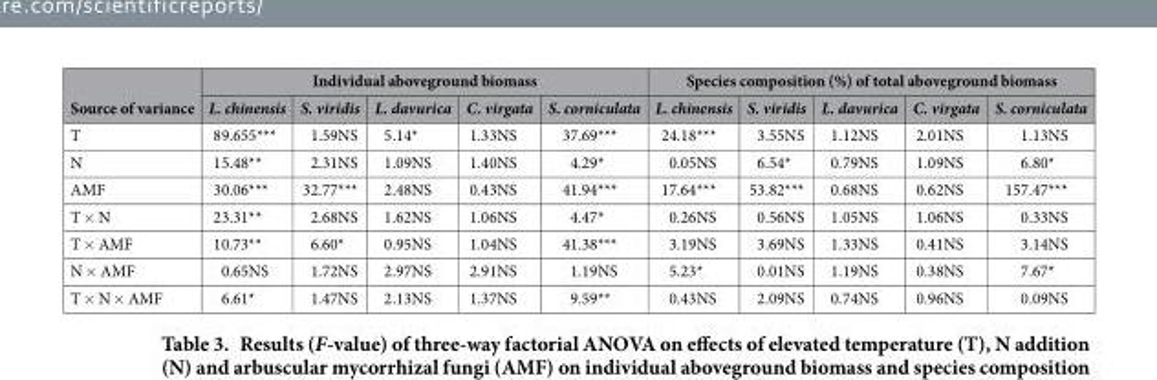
<table><thead><tr><td rowspan="2">Source of variance</td><td colspan="5">Individual aboveground biomass</td><td colspan="5">Species composition (%) of total aboveground biomass</td></tr><tr><td>L. chinensis</td><td>S. viridis</td><td>L. davurica</td><td>C. virgata</td><td>S. corniculata</td><td>L. chinensis</td><td>S. viridis</td><td>L. davurica</td><td>C. virgata</td><td>S. corniculata</td></tr></thead><tbody><tr><td>T</td><td>89.655***</td><td>1.59NS</td><td>5.14*</td><td>1.33NS</td><td>37.69***</td><td>24.18***</td><td>3.55NS</td><td>1.12NS</td><td>2.01NS</td><td>1.13NS</td></tr><tr><td>N</td><td>15.48**</td><td>2.31NS</td><td>1.09NS</td><td>1.40NS</td><td>4.29*</td><td>0.05NS</td><td>6.54*</td><td>0.79NS</td><td>1.09NS</td><td>6.80*</td></tr><tr><td>AMF</td><td>30.06***</td><td>32.77***</td><td>2.48NS</td><td>0.43NS</td><td>41.94***</td><td>17.64***</td><td>53.82***</td><td>0.68NS</td><td>0.62NS</td><td>157.47***</td></tr><tr><td>T × N</td><td>23.31**</td><td>2.68NS</td><td>1.62NS</td><td>1.06NS</td><td>4.47*</td><td>0.26NS</td><td>0.56NS</td><td>1.05NS</td><td>1.06NS</td><td>0.33NS</td></tr><tr><td>T × AMF</td><td>10.73**</td><td>6.60*</td><td>0.95NS</td><td>1.04NS</td><td>41.38***</td><td>3.19NS</td><td>3.69NS</td><td>1.33NS</td><td>0.41NS</td><td>3.14NS</td></tr><tr><td>N × AMF</td><td>0.65NS</td><td>1.72NS</td><td>2.97NS</td><td>2.91NS</td><td>1.19NS</td><td>5.23*</td><td>0.01NS</td><td>1.19NS</td><td>0.38NS</td><td>7.67*</td></tr><tr><td>T × N × AMF</td><td>6.61*</td><td>1.47NS</td><td>2.13NS</td><td>1.37NS</td><td>9.59**</td><td>0.43NS</td><td>2.09NS</td><td>0.74NS</td><td>0.96NS</td><td>0.09NS</td></tr></tbody></table>